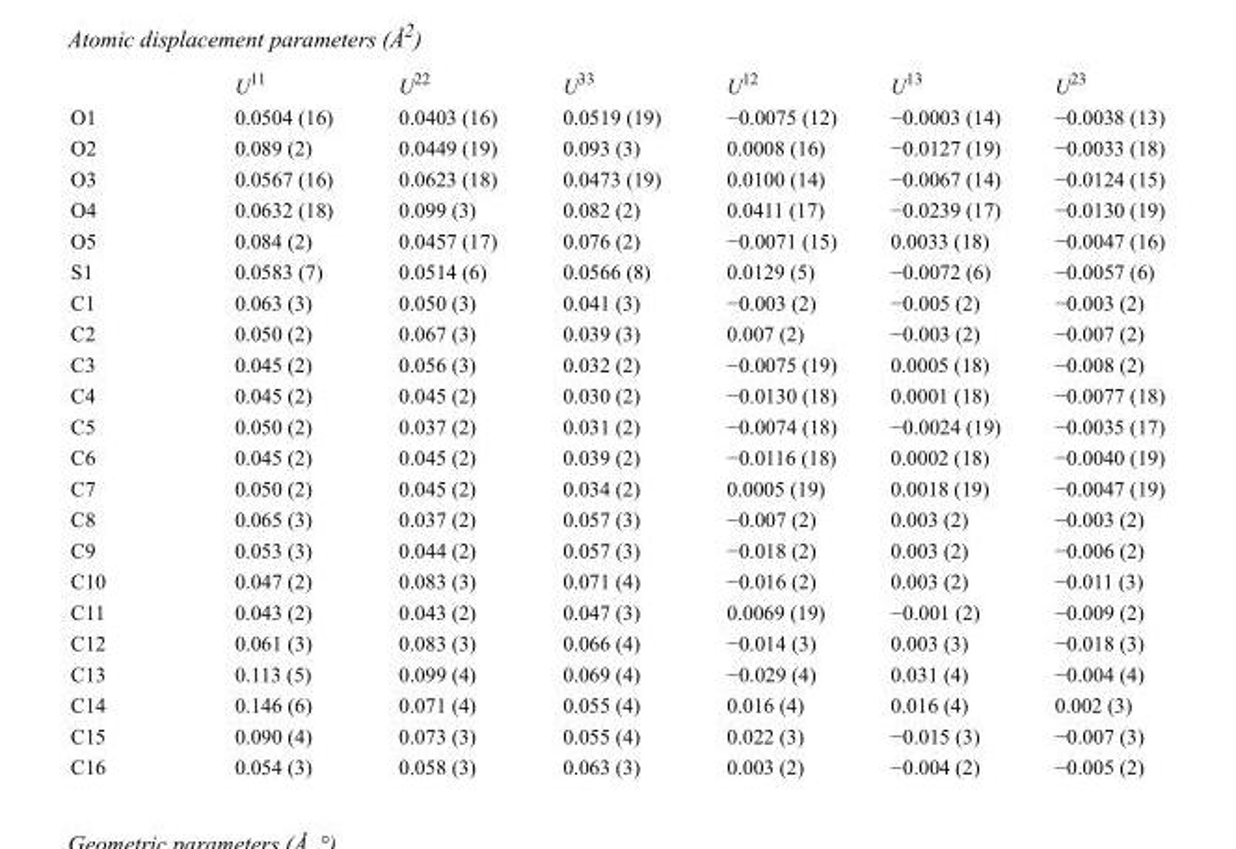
<table><thead><tr><td></td><td>U<sup>11</sup></td><td>U<sup>22</sup></td><td>U<sup>33</sup></td><td>U<sup>12</sup></td><td>U<sup>13</sup></td><td>U<sup>23</sup></td></tr></thead><tbody><tr><td>O1</td><td>0.0504 (16)</td><td>0.0403 (16)</td><td>0.0519 (19)</td><td>−0.0075 (12)</td><td>−0.0003 (14)</td><td>−0.0038 (13)</td></tr><tr><td>O2</td><td>0.089 (2)</td><td>0.0449 (19)</td><td>0.093 (3)</td><td>0.0008 (16)</td><td>−0.0127 (19)</td><td>−0.0033 (18)</td></tr><tr><td>O3</td><td>0.0567 (16)</td><td>0.0623 (18)</td><td>0.0473 (19)</td><td>0.0100 (14)</td><td>−0.0067 (14)</td><td>−0.0124 (15)</td></tr><tr><td>O4</td><td>0.0632 (18)</td><td>0.099 (3)</td><td>0.082 (2)</td><td>0.0411 (17)</td><td>−0.0239 (17)</td><td>−0.0130 (19)</td></tr><tr><td>O5</td><td>0.084 (2)</td><td>0.0457 (17)</td><td>0.076 (2)</td><td>−0.0071 (15)</td><td>0.0033 (18)</td><td>−0.0047 (16)</td></tr><tr><td>S1</td><td>0.0583 (7)</td><td>0.0514 (6)</td><td>0.0566 (8)</td><td>0.0129 (5)</td><td>−0.0072 (6)</td><td>−0.0057 (6)</td></tr><tr><td>C1</td><td>0.063 (3)</td><td>0.050 (3)</td><td>0.041 (3)</td><td>−0.003 (2)</td><td>−0.005 (2)</td><td>−0.003 (2)</td></tr><tr><td>C2</td><td>0.050 (2)</td><td>0.067 (3)</td><td>0.039 (3)</td><td>0.007 (2)</td><td>−0.003 (2)</td><td>−0.007 (2)</td></tr><tr><td>C3</td><td>0.045 (2)</td><td>0.056 (3)</td><td>0.032 (2)</td><td>−0.0075 (19)</td><td>0.0005 (18)</td><td>−0.008 (2)</td></tr><tr><td>C4</td><td>0.045 (2)</td><td>0.045 (2)</td><td>0.030 (2)</td><td>−0.0130 (18)</td><td>0.0001 (18)</td><td>−0.0077 (18)</td></tr><tr><td>C5</td><td>0.050 (2)</td><td>0.037 (2)</td><td>0.031 (2)</td><td>−0.0074 (18)</td><td>−0.0024 (19)</td><td>−0.0035 (17)</td></tr><tr><td>C6</td><td>0.045 (2)</td><td>0.045 (2)</td><td>0.039 (2)</td><td>−0.0116 (18)</td><td>0.0002 (18)</td><td>−0.0040 (19)</td></tr><tr><td>C7</td><td>0.050 (2)</td><td>0.045 (2)</td><td>0.034 (2)</td><td>0.0005 (19)</td><td>0.0018 (19)</td><td>−0.0047 (19)</td></tr><tr><td>C8</td><td>0.065 (3)</td><td>0.037 (2)</td><td>0.057 (3)</td><td>−0.007 (2)</td><td>0.003 (2)</td><td>−0.003 (2)</td></tr><tr><td>C9</td><td>0.053 (3)</td><td>0.044 (2)</td><td>0.057 (3)</td><td>−0.018 (2)</td><td>0.003 (2)</td><td>−0.006 (2)</td></tr><tr><td>C10</td><td>0.047 (2)</td><td>0.083 (3)</td><td>0.071 (4)</td><td>−0.016 (2)</td><td>0.003 (2)</td><td>−0.011 (3)</td></tr><tr><td>C11</td><td>0.043 (2)</td><td>0.043 (2)</td><td>0.047 (3)</td><td>0.0069 (19)</td><td>−0.001 (2)</td><td>−0.009 (2)</td></tr><tr><td>C12</td><td>0.061 (3)</td><td>0.083 (3)</td><td>0.066 (4)</td><td>−0.014 (3)</td><td>0.003 (3)</td><td>−0.018 (3)</td></tr><tr><td>C13</td><td>0.113 (5)</td><td>0.099 (4)</td><td>0.069 (4)</td><td>−0.029 (4)</td><td>0.031 (4)</td><td>−0.004 (4)</td></tr><tr><td>C14</td><td>0.146 (6)</td><td>0.071 (4)</td><td>0.055 (4)</td><td>0.016 (4)</td><td>0.016 (4)</td><td>0.002 (3)</td></tr><tr><td>C15</td><td>0.090 (4)</td><td>0.073 (3)</td><td>0.055 (4)</td><td>0.022 (3)</td><td>−0.015 (3)</td><td>−0.007 (3)</td></tr><tr><td>C16</td><td>0.054 (3)</td><td>0.058 (3)</td><td>0.063 (3)</td><td>0.003 (2)</td><td>−0.004 (2)</td><td>−0.005 (2)</td></tr></tbody></table>